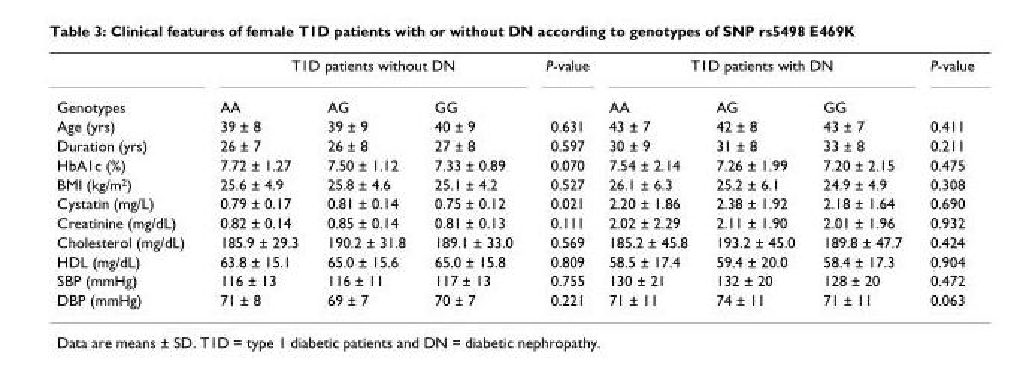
<table><thead><tr><td rowspan="2">Genotypes</td><td colspan="3">T1D patients without DN</td><td rowspan="2">P-value</td><td colspan="3">T1D patients with DN</td><td rowspan="2">P-value</td></tr><tr><td>AA</td><td>AG</td><td>GG</td><td>AA</td><td>AG</td><td>GG</td></tr></thead><tbody><tr><td>Age (yrs)</td><td>39 ± 8</td><td>39 ± 9</td><td>40 ± 9</td><td>0.631</td><td>43 ± 7</td><td>42 ± 8</td><td>43 ± 7</td><td>0.411</td></tr><tr><td>Duration (yrs)</td><td>26 ± 7</td><td>26 ± 8</td><td>27 ± 8</td><td>0.597</td><td>30 ± 9</td><td>31 ± 8</td><td>33 ± 8</td><td>0.211</td></tr><tr><td>HbA1c (%)</td><td>7.72 ± 1.27</td><td>7.50 ± 1.12</td><td>7.33 ± 0.89</td><td>0.070</td><td>7.54 ± 2.14</td><td>7.26 ± 1.99</td><td>7.20 ± 2.15</td><td>0.475</td></tr><tr><td>BMI (kg/m<sup>2</sup>)</td><td>25.6 ± 4.9</td><td>25.8 ± 4.6</td><td>25.1 ± 4.2</td><td>0.527</td><td>26.1 ± 6.3</td><td>25.2 ± 6.1</td><td>24.9 ± 4.9</td><td>0.308</td></tr><tr><td>Cystatin (mg/L)</td><td>0.79 ± 0.17</td><td>0.81 ± 0.14</td><td>0.75 ± 0.12</td><td>0.021</td><td>2.20 ± 1.86</td><td>2.38 ± 1.92</td><td>2.18 ± 1.64</td><td>0.690</td></tr><tr><td>Creatinine (mg/dL)</td><td>0.82 ± 0.14</td><td>0.85 ± 0.14</td><td>0.81 ± 0.13</td><td>0.111</td><td>2.02 ± 2.29</td><td>2.11 ± 1.90</td><td>2.01 ± 1.96</td><td>0.932</td></tr><tr><td>Cholesterol (mg/dL)</td><td>185.9 ± 29.3</td><td>190.2 ± 31.8</td><td>189.1 ± 33.0</td><td>0.569</td><td>185.2 ± 45.8</td><td>193.2 ± 45.0</td><td>189.8 ± 47.7</td><td>0.424</td></tr><tr><td>HDL (mg/dL)</td><td>63.8 ± 15.1</td><td>65.0 ± 15.6</td><td>65.0 ± 15.8</td><td>0.809</td><td>58.5 ± 17.4</td><td>59.4 ± 20.0</td><td>58.4 ± 17.3</td><td>0.904</td></tr><tr><td>SBP (mmHg)</td><td>116 ± 13</td><td>116 ± 11</td><td>117 ± 13</td><td>0.755</td><td>130 ± 21</td><td>132 ± 20</td><td>128 ± 20</td><td>0.472</td></tr><tr><td>DBP (mmHg)</td><td>71 ± 8</td><td>69 ± 7</td><td>70 ± 7</td><td>0.221</td><td>71 ± 11</td><td>74 ± 11</td><td>71 ± 11</td><td>0.063</td></tr></tbody></table>